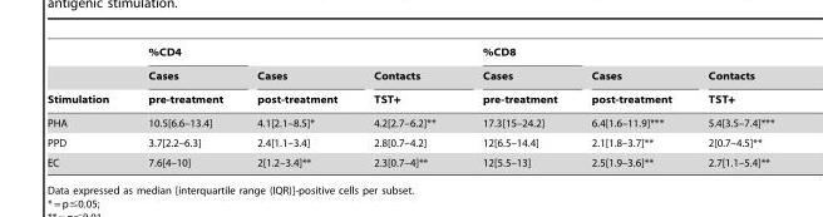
<table><thead><tr><td rowspan="3">Stimulation</td><td rowspan="3">%CD4 Cases pre-treatment</td><td rowspan="3">Cases post-treatment</td><td rowspan="3">Contacts TST+</td><td rowspan="3">%CD8 Cases pre-treatment</td><td rowspan="3">Cases post-treatment</td><td rowspan="3">Contacts TST+</td></tr><tr></tr><tr></tr></thead><tbody><tr><td>PHA</td><td>10.5[6.6–13.4]</td><td>4.1[2.1–8.5]*</td><td>4.2[2.7–6.2]**</td><td>17.3[15–24.2]</td><td>6.4[1.6–11.9]***</td><td>5.4[3.5–7.4]***</td></tr><tr><td>PPD</td><td>3.7[2.2–6.3]</td><td>2.4[1.1–3.4]</td><td>2.8[0.7–4.2]</td><td>12[6.5–14.4]</td><td>2.1[1.8–3.7]**</td><td>2[0.7–4.5]**</td></tr><tr><td>EC</td><td>7.6[4–10]</td><td>2[1.2–3.4]**</td><td>2.3[0.7–4]**</td><td>12[5.5–13]</td><td>2.5[1.9–3.6]**</td><td>2.7[1.1–5.4]**</td></tr></tbody></table>